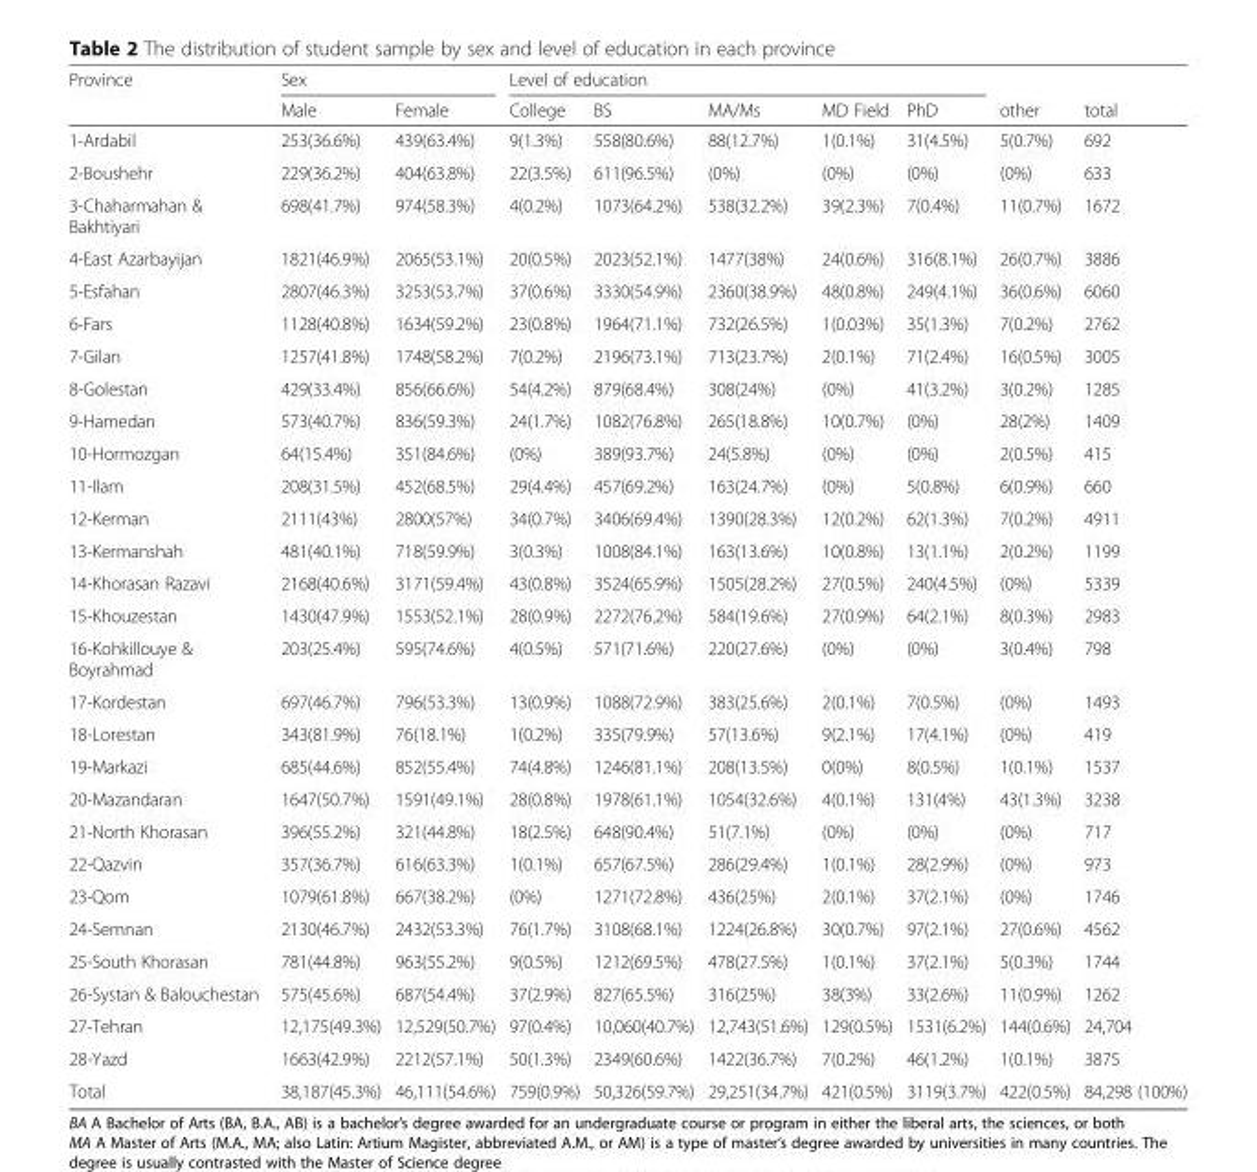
<table><thead><tr><td rowspan="2">Province</td><td colspan="2">Sex</td><td colspan="5">Level of education</td><td rowspan="2">other</td><td rowspan="2">total</td></tr><tr><td>Male</td><td>Female</td><td>College</td><td>BS</td><td>MA/Ms</td><td>MD Field</td><td>PhD</td></tr></thead><tbody><tr><td>1-Ardabil</td><td>253(36.6%)</td><td>439(63.4%)</td><td>9(1.3%)</td><td>558(80.6%)</td><td>88(12.7%)</td><td>1(0.1%)</td><td>31(4.5%)</td><td>5(0.7%)</td><td>692</td></tr><tr><td>2-Boushehr</td><td>229(36.2%)</td><td>404(63.8%)</td><td>22(3.5%)</td><td>611(96.5%)</td><td>(0%)</td><td>(0%)</td><td>(0%)</td><td>(0%)</td><td>633</td></tr><tr><td>3-Chaharmahan &amp; Bakhtiyari</td><td>698(41.7%)</td><td>974(58.3%)</td><td>4(0.2%)</td><td>1073(64.2%)</td><td>538(32.2%)</td><td>39(2.3%)</td><td>7(0.4%)</td><td>11(0.7%)</td><td>1672</td></tr><tr><td>4-East Azarbayijan</td><td>1821(46.9%)</td><td>2065(53.1%)</td><td>20(0.5%)</td><td>2023(52.1%)</td><td>1477(38%)</td><td>24(0.6%)</td><td>316(8.1%)</td><td>26(0.7%)</td><td>3886</td></tr><tr><td>5-Esfahan</td><td>2807(46.3%)</td><td>3253(53.7%)</td><td>37(0.6%)</td><td>3330(54.9%)</td><td>2360(38.9%)</td><td>48(0.8%)</td><td>249(4.1%)</td><td>36(0.6%)</td><td>6060</td></tr><tr><td>6-Fars</td><td>1128(40.8%)</td><td>1634(59.2%)</td><td>23(0.8%)</td><td>1964(71.1%)</td><td>732(26.5%)</td><td>1(0.03%)</td><td>35(1.3%)</td><td>7(0.2%)</td><td>2762</td></tr><tr><td>7-Gilan</td><td>1257(41.8%)</td><td>1748(58.2%)</td><td>7(0.2%)</td><td>2196(73.1%)</td><td>713(23.7%)</td><td>2(0.1%)</td><td>71(2.4%)</td><td>16(0.5%)</td><td>3005</td></tr><tr><td>8-Golestan</td><td>429(33.4%)</td><td>856(66.6%)</td><td>54(4.2%)</td><td>879(68.4%)</td><td>308(24%)</td><td>(0%)</td><td>41(3.2%)</td><td>3(0.2%)</td><td>1285</td></tr><tr><td>9-Hamedan</td><td>573(40.7%)</td><td>836(59.3%)</td><td>24(1.7%)</td><td>1082(76.8%)</td><td>265(18.8%)</td><td>10(0.7%)</td><td>(0%)</td><td>28(2%)</td><td>1409</td></tr><tr><td>10-Hormozgan</td><td>64(15.4%)</td><td>351(84.6%)</td><td>(0%)</td><td>389(93.7%)</td><td>24(5.8%)</td><td>(0%)</td><td>(0%)</td><td>2(0.5%)</td><td>415</td></tr><tr><td>11-Ilam</td><td>208(31.5%)</td><td>452(68.5%)</td><td>29(4.4%)</td><td>457(69.2%)</td><td>163(24.7%)</td><td>(0%)</td><td>5(0.8%)</td><td>6(0.9%)</td><td>660</td></tr><tr><td>12-Kerman</td><td>2111(43%)</td><td>2800(57%)</td><td>34(0.7%)</td><td>3406(69.4%)</td><td>1390(28.3%)</td><td>12(0.2%)</td><td>62(1.3%)</td><td>7(0.2%)</td><td>4911</td></tr><tr><td>13-Kermanshah</td><td>481(40.1%)</td><td>718(59.9%)</td><td>3(0.3%)</td><td>1008(84.1%)</td><td>163(13.6%)</td><td>10(0.8%)</td><td>13(1.1%)</td><td>2(0.2%)</td><td>1199</td></tr><tr><td>14-Khorasan Razavi</td><td>2168(40.6%)</td><td>3171(59.4%)</td><td>43(0.8%)</td><td>3524(65.9%)</td><td>1505(28.2%)</td><td>27(0.5%)</td><td>240(4.5%)</td><td>(0%)</td><td>5339</td></tr><tr><td>15-Khouzestan</td><td>1430(47.9%)</td><td>1553(52.1%)</td><td>28(0.9%)</td><td>2272(76.2%)</td><td>584(19.6%)</td><td>27(0.9%)</td><td>64(2.1%)</td><td>8(0.3%)</td><td>2983</td></tr><tr><td>16-Kohkillouye &amp; Boyrahmad</td><td>203(25.4%)</td><td>595(74.6%)</td><td>4(0.5%)</td><td>571(71.6%)</td><td>220(27.6%)</td><td>(0%)</td><td>(0%)</td><td>3(0.4%)</td><td>798</td></tr><tr><td>17-Kordestan</td><td>697(46.7%)</td><td>796(53.3%)</td><td>13(0.9%)</td><td>1088(72.9%)</td><td>383(25.6%)</td><td>2(0.1%)</td><td>7(0.5%)</td><td>(0%)</td><td>1493</td></tr><tr><td>18-Lorestan</td><td>343(81.9%)</td><td>76(18.1%)</td><td>1(0.2%)</td><td>335(79.9%)</td><td>57(13.6%)</td><td>9(2.1%)</td><td>17(4.1%)</td><td>(0%)</td><td>419</td></tr><tr><td>19-Markazi</td><td>685(44.6%)</td><td>852(55.4%)</td><td>74(4.8%)</td><td>1246(81.1%)</td><td>208(13.5%)</td><td>0(0%)</td><td>8(0.5%)</td><td>1(0.1%)</td><td>1537</td></tr><tr><td>20-Mazandaran</td><td>1647(50.7%)</td><td>1591(49.1%)</td><td>28(0.8%)</td><td>1978(61.1%)</td><td>1054(32.6%)</td><td>4(0.1%)</td><td>131(4%)</td><td>43(1.3%)</td><td>3238</td></tr><tr><td>21-North Khorasan</td><td>396(55.2%)</td><td>321(44.8%)</td><td>18(2.5%)</td><td>648(90.4%)</td><td>51(7.1%)</td><td>(0%)</td><td>(0%)</td><td>(0%)</td><td>717</td></tr><tr><td>22-Qazvin</td><td>357(36.7%)</td><td>616(63.3%)</td><td>1(0.1%)</td><td>657(67.5%)</td><td>286(29.4%)</td><td>1(0.1%)</td><td>28(2.9%)</td><td>(0%)</td><td>973</td></tr><tr><td>23-Qom</td><td>1079(61.8%)</td><td>667(38.2%)</td><td>(0%)</td><td>1271(72.8%)</td><td>436(25%)</td><td>2(0.1%)</td><td>37(2.1%)</td><td>(0%)</td><td>1746</td></tr><tr><td>24-Semnan</td><td>2130(46.7%)</td><td>2432(53.3%)</td><td>76(1.7%)</td><td>3108(68.1%)</td><td>1224(26.8%)</td><td>30(0.7%)</td><td>97(2.1%)</td><td>27(0.6%)</td><td>4562</td></tr><tr><td>25-South Khorasan</td><td>781(44.8%)</td><td>963(55.2%)</td><td>9(0.5%)</td><td>1212(69.5%)</td><td>478(27.5%)</td><td>1(0.1%)</td><td>37(2.1%)</td><td>5(0.3%)</td><td>1744</td></tr><tr><td>26-Systan &amp; Balouchestan</td><td>575(45.6%)</td><td>687(54.4%)</td><td>37(2.9%)</td><td>827(65.5%)</td><td>316(25%)</td><td>38(3%)</td><td>33(2.6%)</td><td>11(0.9%)</td><td>1262</td></tr><tr><td>27-Tehran</td><td>12,175(49.3%)</td><td>12,529(50.7%)</td><td>97(0.4%)</td><td>10,060(40.7%)</td><td>12,743(51.6%)</td><td>129(0.5%)</td><td>1531(6.2%)</td><td>144(0.6%)</td><td>24,704</td></tr><tr><td>28-Yazd</td><td>1663(42.9%)</td><td>2212(57.1%)</td><td>50(1.3%)</td><td>2349(60.6%)</td><td>1422(36.7%)</td><td>7(0.2%)</td><td>46(1.2%)</td><td>1(0.1%)</td><td>3875</td></tr><tr><td>Total</td><td>38,187(45.3%)</td><td>46,111(54.6%)</td><td>759(0.9%)</td><td>50,326(59.7%)</td><td>29,251(34.7%)</td><td>421(0.5%)</td><td>3119(3.7%)</td><td>422(0.5%)</td><td>84,298 (100%)</td></tr></tbody></table>